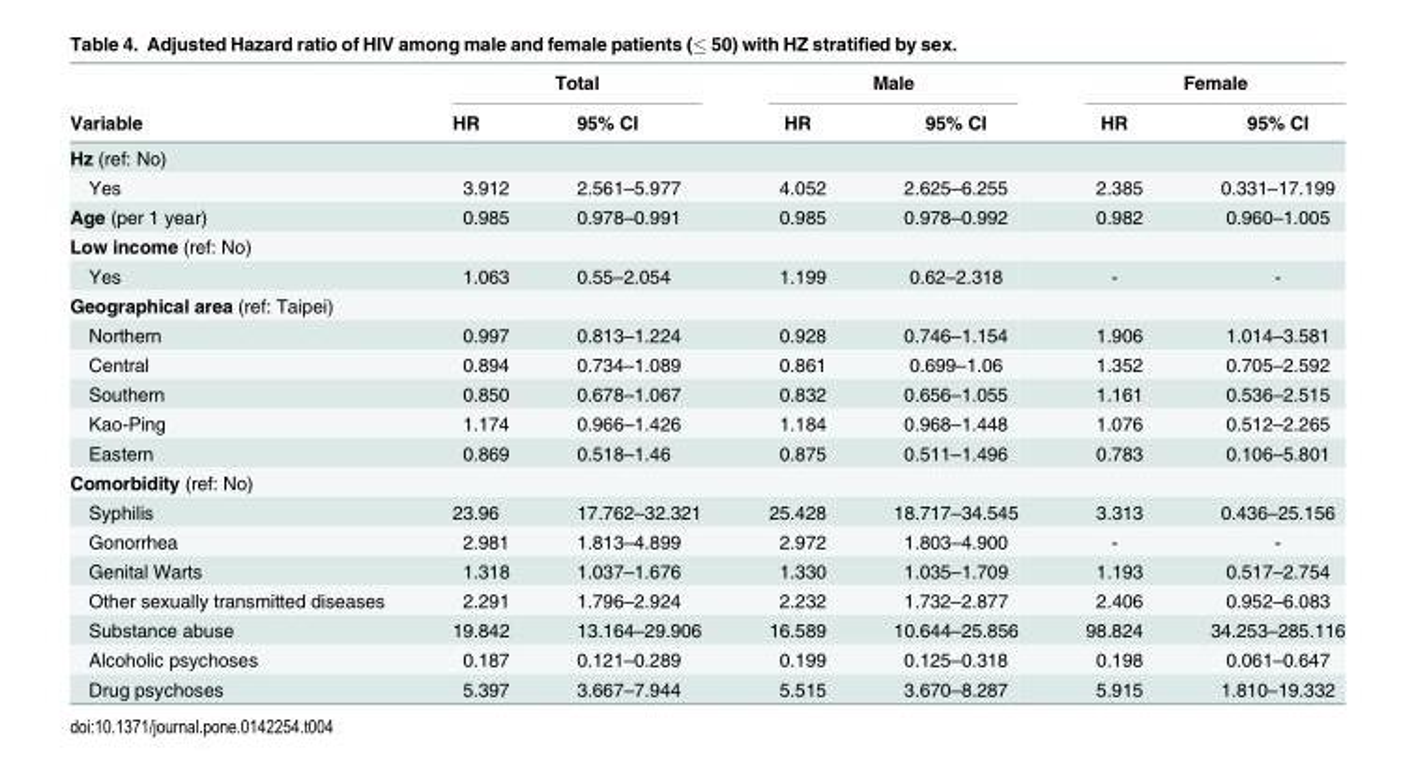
<table><thead><tr><td rowspan="2">Variable</td><td colspan="2">Total</td><td colspan="2">Male</td><td colspan="2">Female</td></tr><tr><td>HR</td><td>95% CI</td><td>HR</td><td>95% CI</td><td>HR</td><td>95% CI</td></tr></thead><tbody><tr><td colspan="7">Hz (ref: No)</td></tr><tr><td>Yes</td><td>3.912</td><td>2.561–5.977</td><td>4.052</td><td>2.625–6.255</td><td>2.385</td><td>0.331–17.199</td></tr><tr><td>Age (per 1 year)</td><td>0.985</td><td>0.978–0.991</td><td>0.985</td><td>0.978–0.992</td><td>0.982</td><td>0.960–1.005</td></tr><tr><td colspan="7">Low income (ref: No)</td></tr><tr><td>Yes</td><td>1.063</td><td>0.55–2.054</td><td>1.199</td><td>0.62–2.318</td><td>-</td><td>-</td></tr><tr><td colspan="7">Geographical area (ref: Taipei)</td></tr><tr><td>Northern</td><td>0.997</td><td>0.813–1.224</td><td>0.928</td><td>0.746–1.154</td><td>1.906</td><td>1.014–3.581</td></tr><tr><td>Central</td><td>0.894</td><td>0.734–1.089</td><td>0.861</td><td>0.699–1.06</td><td>1.352</td><td>0.705–2.592</td></tr><tr><td>Southern</td><td>0.850</td><td>0.678–1.067</td><td>0.832</td><td>0.656–1.055</td><td>1.161</td><td>0.536–2.515</td></tr><tr><td>Kao-Ping</td><td>1.174</td><td>0.966–1.426</td><td>1.184</td><td>0.968–1.448</td><td>1.076</td><td>0.512–2.265</td></tr><tr><td>Eastern</td><td>0.869</td><td>0.518–1.46</td><td>0.875</td><td>0.511–1.496</td><td>0.783</td><td>0.106–5.801</td></tr><tr><td colspan="7">Comorbidity (ref: No)</td></tr><tr><td>Syphilis</td><td>23.96</td><td>17.762–32.321</td><td>25.428</td><td>18.717–34.545</td><td>3.313</td><td>0.436–25.156</td></tr><tr><td>Gonorrhea</td><td>2.981</td><td>1.813–4.899</td><td>2.972</td><td>1.803–4.900</td><td>-</td><td>-</td></tr><tr><td>Genital Warts</td><td>1.318</td><td>1.037–1.676</td><td>1.330</td><td>1.035–1.709</td><td>1.193</td><td>0.517–2.754</td></tr><tr><td>Other sexually transmitted diseases</td><td>2.291</td><td>1.796–2.924</td><td>2.232</td><td>1.732–2.877</td><td>2.406</td><td>0.952–6.083</td></tr><tr><td>Substance abuse</td><td>19.842</td><td>13.164–29.906</td><td>16.589</td><td>10.644–25.856</td><td>98.824</td><td>34.253–285.116</td></tr><tr><td>Alcoholic psychoses</td><td>0.187</td><td>0.121–0.289</td><td>0.199</td><td>0.125–0.318</td><td>0.198</td><td>0.061–0.647</td></tr><tr><td>Drug psychoses</td><td>5.397</td><td>3.667–7.944</td><td>5.515</td><td>3.670–8.287</td><td>5.915</td><td>1.810–19.332</td></tr></tbody></table>